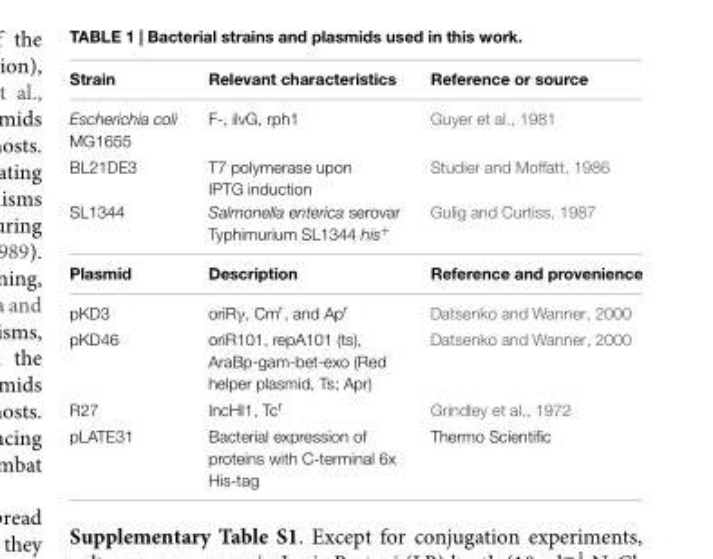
<table><thead><tr><td>Strain</td><td>Relevant characteristics</td><td>Reference or source</td></tr></thead><tbody><tr><td>Escherichia coli MG1655</td><td>F-, ilvG, rph1</td><td>Guyer et al., 1981</td></tr><tr><td>BL21DE3</td><td>T7 polymerase upon IPTG induction</td><td>Studier and Moffatt, 1986</td></tr><tr><td>SL1344</td><td>Salmonella enterica serovar Typhimurium SL1344 his<sup>+</sup></td><td>Gulig and Curtiss, 1987</td></tr><tr><td>Plasmid</td><td>Description</td><td>Reference and provenience</td></tr><tr><td>pKD3</td><td>oriRγ, Cm<sup>r</sup>, and Ap<sup>r</sup></td><td>Datsenko and Wanner, 2000</td></tr><tr><td>pKD46</td><td>oriR101, repA101 (ts), AraBp-gam-bet-exo (Red helper plasmid, Ts; Apr)</td><td>Datsenko and Wanner, 2000</td></tr><tr><td>R27</td><td>IncHI1, Tc<sup>r</sup></td><td>Grindley et al., 1972</td></tr><tr><td>pLATE31</td><td>Bacterial expression of proteins with C-terminal 6x His-tag</td><td>Thermo Scientific</td></tr></tbody></table>